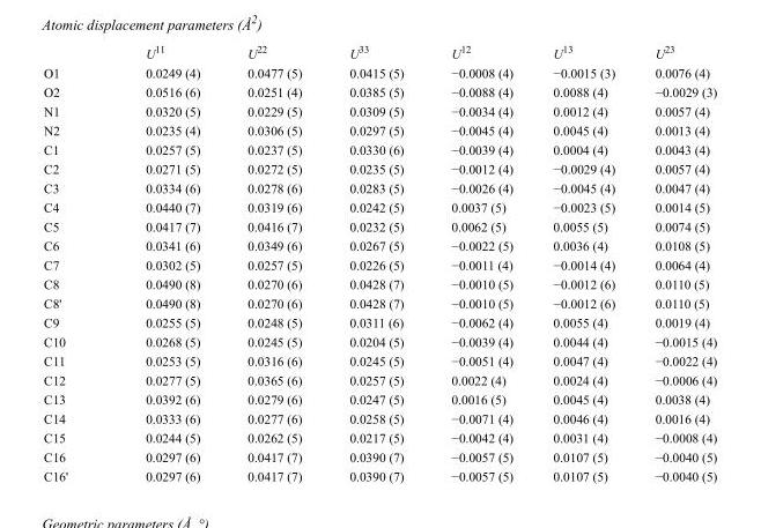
<table><thead><tr><td></td><td>U<sup>11</sup></td><td>U<sup>22</sup></td><td>U<sup>33</sup></td><td>U<sup>12</sup></td><td>U<sup>13</sup></td><td>U<sup>23</sup></td></tr></thead><tbody><tr><td>O1</td><td>0.0249 (4)</td><td>0.0477 (5)</td><td>0.0415 (5)</td><td>−0.0008 (4)</td><td>−0.0015 (3)</td><td>0.0076 (4)</td></tr><tr><td>O2</td><td>0.0516 (6)</td><td>0.0251 (4)</td><td>0.0385 (5)</td><td>−0.0088 (4)</td><td>0.0088 (4)</td><td>−0.0029 (3)</td></tr><tr><td>N1</td><td>0.0320 (5)</td><td>0.0229 (5)</td><td>0.0309 (5)</td><td>−0.0034 (4)</td><td>0.0012 (4)</td><td>0.0057 (4)</td></tr><tr><td>N2</td><td>0.0235 (4)</td><td>0.0306 (5)</td><td>0.0297 (5)</td><td>−0.0045 (4)</td><td>0.0045 (4)</td><td>0.0013 (4)</td></tr><tr><td>C1</td><td>0.0257 (5)</td><td>0.0237 (5)</td><td>0.0330 (6)</td><td>−0.0039 (4)</td><td>0.0004 (4)</td><td>0.0043 (4)</td></tr><tr><td>C2</td><td>0.0271 (5)</td><td>0.0272 (5)</td><td>0.0235 (5)</td><td>−0.0012 (4)</td><td>−0.0029 (4)</td><td>0.0057 (4)</td></tr><tr><td>C3</td><td>0.0334 (6)</td><td>0.0278 (6)</td><td>0.0283 (5)</td><td>−0.0026 (4)</td><td>−0.0045 (4)</td><td>0.0047 (4)</td></tr><tr><td>C4</td><td>0.0440 (7)</td><td>0.0319 (6)</td><td>0.0242 (5)</td><td>0.0037 (5)</td><td>−0.0023 (5)</td><td>0.0014 (5)</td></tr><tr><td>C5</td><td>0.0417 (7)</td><td>0.0416 (7)</td><td>0.0232 (5)</td><td>0.0062 (5)</td><td>0.0055 (5)</td><td>0.0074 (5)</td></tr><tr><td>C6</td><td>0.0341 (6)</td><td>0.0349 (6)</td><td>0.0267 (5)</td><td>−0.0022 (5)</td><td>0.0036 (4)</td><td>0.0108 (5)</td></tr><tr><td>C7</td><td>0.0302 (5)</td><td>0.0257 (5)</td><td>0.0226 (5)</td><td>−0.0011 (4)</td><td>−0.0014 (4)</td><td>0.0064 (4)</td></tr><tr><td>C8</td><td>0.0490 (8)</td><td>0.0270 (6)</td><td>0.0428 (7)</td><td>−0.0010 (5)</td><td>−0.0012 (6)</td><td>0.0110 (5)</td></tr><tr><td>C8&#x27;</td><td>0.0490 (8)</td><td>0.0270 (6)</td><td>0.0428 (7)</td><td>−0.0010 (5)</td><td>−0.0012 (6)</td><td>0.0110 (5)</td></tr><tr><td>C9</td><td>0.0255 (5)</td><td>0.0248 (5)</td><td>0.0311 (6)</td><td>−0.0062 (4)</td><td>0.0055 (4)</td><td>0.0019 (4)</td></tr><tr><td>C10</td><td>0.0268 (5)</td><td>0.0245 (5)</td><td>0.0204 (5)</td><td>−0.0039 (4)</td><td>0.0044 (4)</td><td>−0.0015 (4)</td></tr><tr><td>C11</td><td>0.0253 (5)</td><td>0.0316 (6)</td><td>0.0245 (5)</td><td>−0.0051 (4)</td><td>0.0047 (4)</td><td>−0.0022 (4)</td></tr><tr><td>C12</td><td>0.0277 (5)</td><td>0.0365 (6)</td><td>0.0257 (5)</td><td>0.0022 (4)</td><td>0.0024 (4)</td><td>−0.0006 (4)</td></tr><tr><td>C13</td><td>0.0392 (6)</td><td>0.0279 (6)</td><td>0.0247 (5)</td><td>0.0016 (5)</td><td>0.0045 (4)</td><td>0.0038 (4)</td></tr><tr><td>C14</td><td>0.0333 (6)</td><td>0.0277 (6)</td><td>0.0258 (5)</td><td>−0.0071 (4)</td><td>0.0046 (4)</td><td>0.0016 (4)</td></tr><tr><td>C15</td><td>0.0244 (5)</td><td>0.0262 (5)</td><td>0.0217 (5)</td><td>−0.0042 (4)</td><td>0.0031 (4)</td><td>−0.0008 (4)</td></tr><tr><td>C16</td><td>0.0297 (6)</td><td>0.0417 (7)</td><td>0.0390 (7)</td><td>−0.0057 (5)</td><td>0.0107 (5)</td><td>−0.0040 (5)</td></tr><tr><td>C16&#x27;</td><td>0.0297 (6)</td><td>0.0417 (7)</td><td>0.0390 (7)</td><td>−0.0057 (5)</td><td>0.0107 (5)</td><td>−0.0040 (5)</td></tr></tbody></table>